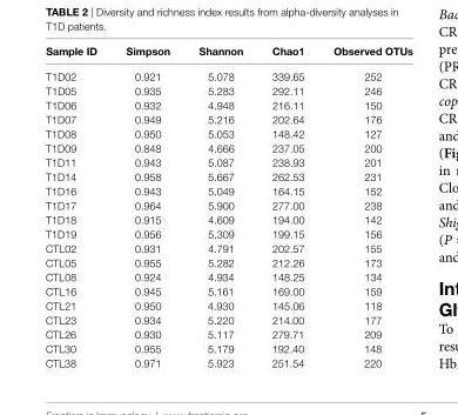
<table><thead><tr><td>sample iD</td><td>simpson</td><td>shannon</td><td>chao1</td><td>Observed OTUs</td></tr></thead><tbody><tr><td>T1D02</td><td>0.921</td><td>5.078</td><td>339.65</td><td>252</td></tr><tr><td>T1D05</td><td>0.935</td><td>5.283</td><td>292.11</td><td>246</td></tr><tr><td>T1D06</td><td>0.932</td><td>4.948</td><td>216.11</td><td>150</td></tr><tr><td>T1D07</td><td>0.949</td><td>5.216</td><td>202.64</td><td>176</td></tr><tr><td>T1D08</td><td>0.950</td><td>5.053</td><td>148.42</td><td>127</td></tr><tr><td>T1D09</td><td>0.848</td><td>4.666</td><td>237.05</td><td>200</td></tr><tr><td>T1D11</td><td>0.943</td><td>5.087</td><td>238.93</td><td>201</td></tr><tr><td>T1D14</td><td>0.958</td><td>5.667</td><td>262.53</td><td>231</td></tr><tr><td>T1D16</td><td>0.943</td><td>5.049</td><td>164.15</td><td>152</td></tr><tr><td>T1D17</td><td>0.964</td><td>5.900</td><td>277.00</td><td>238</td></tr><tr><td>T1D18</td><td>0.915</td><td>4.609</td><td>194.00</td><td>142</td></tr><tr><td>T1D19</td><td>0.956</td><td>5.309</td><td>199.15</td><td>156</td></tr><tr><td>CTL02</td><td>0.931</td><td>4.791</td><td>202.57</td><td>155</td></tr><tr><td>CTL05</td><td>0.955</td><td>5.282</td><td>212.26</td><td>173</td></tr><tr><td>CTL08</td><td>0.924</td><td>4.934</td><td>148.25</td><td>134</td></tr><tr><td>CTL16</td><td>0.945</td><td>5.161</td><td>169.00</td><td>159</td></tr><tr><td>CTL21</td><td>0.950</td><td>4.930</td><td>145.06</td><td>118</td></tr><tr><td>CTL23</td><td>0.934</td><td>5.220</td><td>214.00</td><td>177</td></tr><tr><td>CTL26</td><td>0.930</td><td>5.117</td><td>279.71</td><td>209</td></tr><tr><td>CTL30</td><td>0.955</td><td>5.179</td><td>192.40</td><td>148</td></tr><tr><td>CTL38</td><td>0.971</td><td>5.923</td><td>251.54</td><td>220</td></tr></tbody></table>